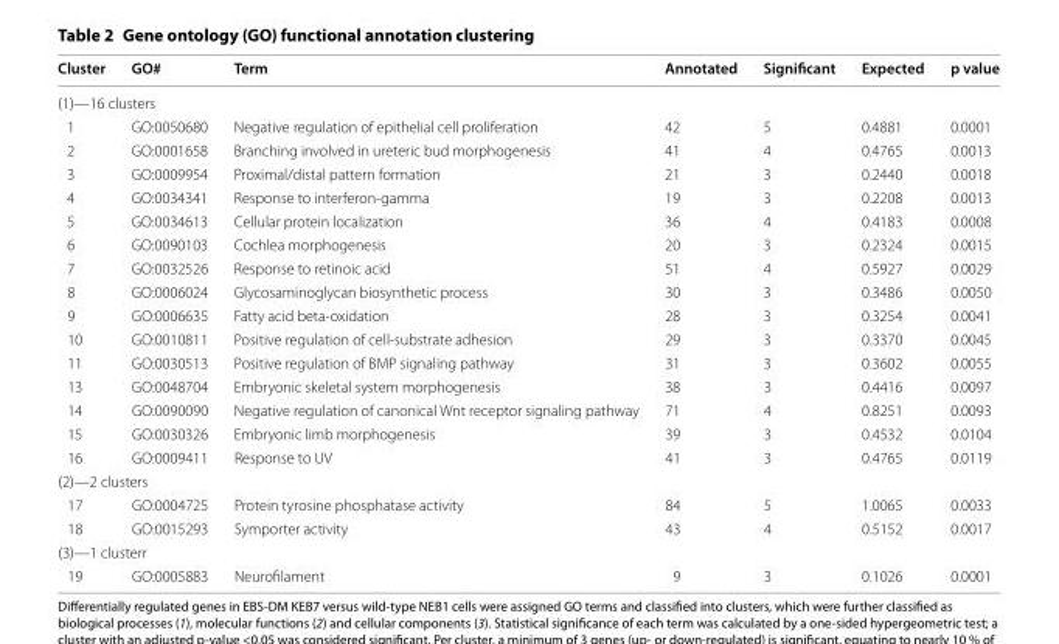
<table><thead><tr><td>Cluster</td><td>GO#</td><td>Term</td><td>Annotated</td><td>Significant</td><td>Expected</td><td>p value</td></tr></thead><tbody><tr><td colspan="7">(1)—16 clusters</td></tr><tr><td>1</td><td>GO:0050680</td><td>Negative regulation of epithelial cell proliferation</td><td>42</td><td>5</td><td>0.4881</td><td>0.0001</td></tr><tr><td>2</td><td>GO:0001658</td><td>Branching involved in ureteric bud morphogenesis</td><td>41</td><td>4</td><td>0.4765</td><td>0.0013</td></tr><tr><td>3</td><td>GO:0009954</td><td>Proximal/distal pattern formation</td><td>21</td><td>3</td><td>0.2440</td><td>0.0018</td></tr><tr><td>4</td><td>GO:0034341</td><td>Response to interferon-gamma</td><td>19</td><td>3</td><td>0.2208</td><td>0.0013</td></tr><tr><td>5</td><td>GO:0034613</td><td>Cellular protein localization</td><td>36</td><td>4</td><td>0.4183</td><td>0.0008</td></tr><tr><td>6</td><td>GO:0090103</td><td>Cochlea morphogenesis</td><td>20</td><td>3</td><td>0.2324</td><td>0.0015</td></tr><tr><td>7</td><td>GO:0032526</td><td>Response to retinoic acid</td><td>51</td><td>4</td><td>0.5927</td><td>0.0029</td></tr><tr><td>8</td><td>GO:0006024</td><td>Glycosaminoglycan biosynthetic process</td><td>30</td><td>3</td><td>0.3486</td><td>0.0050</td></tr><tr><td>9</td><td>GO:0006635</td><td>Fatty acid beta-oxidation</td><td>28</td><td>3</td><td>0.3254</td><td>0.0041</td></tr><tr><td>10</td><td>GO:0010811</td><td>Positive regulation of cell-substrate adhesion</td><td>29</td><td>3</td><td>0.3370</td><td>0.0045</td></tr><tr><td>11</td><td>GO:0030513</td><td>Positive regulation of BMP signaling pathway</td><td>31</td><td>3</td><td>0.3602</td><td>0.0055</td></tr><tr><td>13</td><td>GO:0048704</td><td>Embryonic skeletal system morphogenesis</td><td>38</td><td>3</td><td>0.4416</td><td>0.0097</td></tr><tr><td>14</td><td>GO:0090090</td><td>Negative regulation of canonical Wnt receptor signaling pathway</td><td>71</td><td>4</td><td>0.8251</td><td>0.0093</td></tr><tr><td>15</td><td>GO:0030326</td><td>Embryonic limb morphogenesis</td><td>39</td><td>3</td><td>0.4532</td><td>0.0104</td></tr><tr><td>16</td><td>GO:0009411</td><td>Response to UV</td><td>41</td><td>3</td><td>0.4765</td><td>0.0119</td></tr><tr><td colspan="7">(2)—2 clusters</td></tr><tr><td>17</td><td>GO:0004725</td><td>Protein tyrosine phosphatase activity</td><td>84</td><td>5</td><td>1.0065</td><td>0.0033</td></tr><tr><td>18</td><td>GO:0015293</td><td>Symporter activity</td><td>43</td><td>4</td><td>0.5152</td><td>0.0017</td></tr><tr><td colspan="7">(3)—1 clusterr</td></tr><tr><td>19</td><td>GO:0005883</td><td>Neurofilament</td><td>9</td><td>3</td><td>0.1026</td><td>0.0001</td></tr></tbody></table>